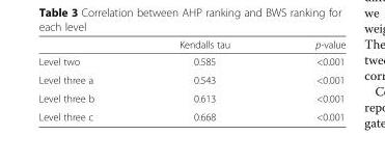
<table><thead><tr><td></td><td>Kendalls tau</td><td>p-value</td></tr></thead><tbody><tr><td>Level two</td><td>0.585</td><td>&lt;0.001</td></tr><tr><td>Level three a</td><td>0.543</td><td>&lt;0.001</td></tr><tr><td>Level three b</td><td>0.613</td><td>&lt;0.001</td></tr><tr><td>Level three c</td><td>0.668</td><td>&lt;0.001</td></tr></tbody></table>